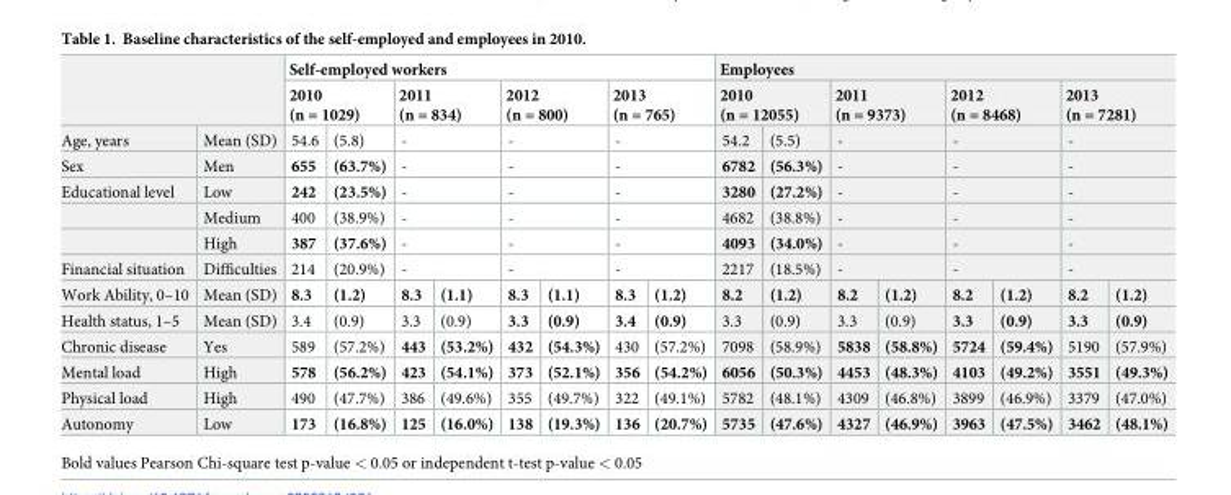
<table><thead><tr><td rowspan="2"></td><td rowspan="2"></td><td colspan="8">Self-employed workers</td><td colspan="8">Employees</td></tr><tr><td colspan="2">2010 (n = 1029)</td><td colspan="2">2011 (n = 834)</td><td colspan="2">2012 (n = 800)</td><td colspan="2">2013 (n = 765)</td><td colspan="2">2010 (n = 12055)</td><td colspan="2">2011 (n = 9373)</td><td colspan="2">2012 (n = 8468)</td><td colspan="2">2013 (n = 7281)</td></tr></thead><tbody><tr><td>Age, years</td><td>Mean (SD)</td><td>54.6</td><td>(5.8)</td><td colspan="2">-</td><td colspan="2">-</td><td colspan="2">-</td><td>54.2</td><td>(5.5)</td><td colspan="2">-</td><td colspan="2">-</td><td colspan="2">-</td></tr><tr><td>Sex</td><td>Men</td><td>655</td><td>(63.7%)</td><td colspan="2">-</td><td colspan="2">-</td><td colspan="2">-</td><td>6782</td><td>(56.3%)</td><td colspan="2">-</td><td colspan="2">-</td><td colspan="2">-</td></tr><tr><td rowspan="3">Educational level</td><td>Low</td><td>242</td><td>(23.5%)</td><td colspan="2">-</td><td colspan="2">-</td><td colspan="2">-</td><td>3280</td><td>(27.2%)</td><td colspan="2">-</td><td colspan="2">-</td><td colspan="2">-</td></tr><tr><td>Medium</td><td>400</td><td>(38.9%)</td><td colspan="2">-</td><td colspan="2">-</td><td colspan="2">-</td><td>4682</td><td>(38.8%)</td><td colspan="2">-</td><td colspan="2">-</td><td colspan="2">-</td></tr><tr><td>High</td><td>387</td><td>(37.6%)</td><td colspan="2">-</td><td colspan="2">-</td><td colspan="2">-</td><td>4093</td><td>(34.0%)</td><td colspan="2">-</td><td colspan="2">-</td><td colspan="2">-</td></tr><tr><td>Financial situation</td><td>Difficulties</td><td>214</td><td>(20.9%)</td><td colspan="2">-</td><td colspan="2">-</td><td colspan="2">-</td><td>2217</td><td>(18.5%)</td><td colspan="2">-</td><td colspan="2">-</td><td colspan="2">-</td></tr><tr><td>Work Ability, 0–10</td><td>Mean (SD)</td><td>8.3</td><td>(1.2)</td><td>8.3</td><td>(1.1)</td><td>8.3</td><td>(1.1)</td><td>8.3</td><td>(1.2)</td><td>8.2</td><td>(1.2)</td><td>8.2</td><td>(1.2)</td><td>8.2</td><td>(1.2)</td><td>8.2</td><td>(1.2)</td></tr><tr><td>Health status, 1–5</td><td>Mean (SD)</td><td>3.4</td><td>(0.9)</td><td>3.3</td><td>(0.9)</td><td>3.3</td><td>(0.9)</td><td>3.4</td><td>(0.9)</td><td>3.3</td><td>(0.9)</td><td>3.3</td><td>(0.9)</td><td>3.3</td><td>(0.9)</td><td>3.3</td><td>(0.9)</td></tr><tr><td>Chronic disease</td><td>Yes</td><td>589</td><td>(57.2%)</td><td>443</td><td>(53.2%)</td><td>432</td><td>(54.3%)</td><td>430</td><td>(57.2%)</td><td>7098</td><td>(58.9%)</td><td>5838</td><td>(58.8%)</td><td>5724</td><td>(59.4%)</td><td>5190</td><td>(57.9%)</td></tr><tr><td>Mental load</td><td>High</td><td>578</td><td>(56.2%)</td><td>423</td><td>(54.1%)</td><td>373</td><td>(52.1%)</td><td>356</td><td>(54.2%)</td><td>6056</td><td>(50.3%)</td><td>4453</td><td>(48.3%)</td><td>4103</td><td>(49.2%)</td><td>3551</td><td>(49.3%)</td></tr><tr><td>Physical load</td><td>High</td><td>490</td><td>(47.7%)</td><td>386</td><td>(49.6%)</td><td>355</td><td>(49.7%)</td><td>322</td><td>(49.1%)</td><td>5782</td><td>(48.1%)</td><td>4309</td><td>(46.8%)</td><td>3899</td><td>(46.9%)</td><td>3379</td><td>(47.0%)</td></tr><tr><td>Autonomy</td><td>Low</td><td>173</td><td>(16.8%)</td><td>125</td><td>(16.0%)</td><td>138</td><td>(19.3%)</td><td>136</td><td>(20.7%)</td><td>5735</td><td>(47.6%)</td><td>4327</td><td>(46.9%)</td><td>3963</td><td>(47.5%)</td><td>3462</td><td>(48.1%)</td></tr></tbody></table>